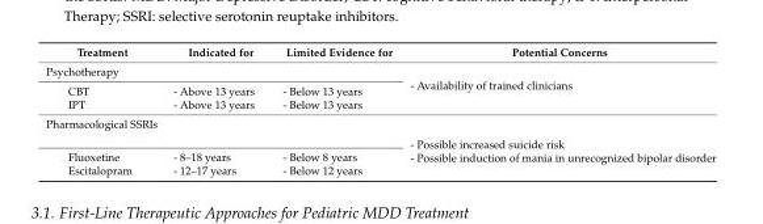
<table><thead><tr><td>Treatment</td><td>Indicated for</td><td>Limited Evidence for</td><td>Potential Concerns</td></tr></thead><tbody><tr><td colspan="3">Psychotherapy</td><td rowspan="3">- Availability of trained clinicians</td></tr><tr><td>CBT</td><td>- Above 13 years</td><td>- Below 13 years</td></tr><tr><td>IPT</td><td>- Above 13 years</td><td>- Below 13 years</td></tr><tr><td colspan="3">Pharmacological SSRIs</td><td rowspan="3">- Possible increased suicide risk - Possible induction of mania in unrecognized bipolar disorder</td></tr><tr><td>Fluoxetine</td><td>- 8–18 years</td><td>- Below 8 years</td></tr><tr><td>Escitalopram</td><td>- 12–17 years</td><td>- Below 12 years</td></tr></tbody></table>